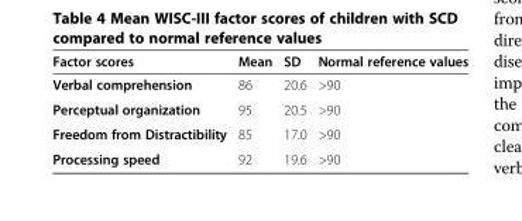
<table><thead><tr><td>Factor scores</td><td>Mean</td><td>SD</td><td>Normal reference values</td></tr></thead><tbody><tr><td>Verbal comprehension</td><td>86</td><td>20.6</td><td>&gt;90</td></tr><tr><td>Perceptual organization</td><td>95</td><td>20.5</td><td>&gt;90</td></tr><tr><td>Freedom from Distractibility</td><td>85</td><td>17.0</td><td>&gt;90</td></tr><tr><td>Processing speed</td><td>92</td><td>19.6</td><td>&gt;90</td></tr></tbody></table>